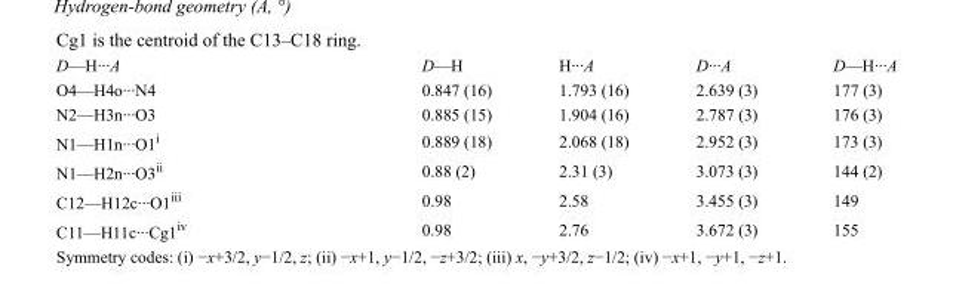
<table><tbody><tr><td>D—H···A</td><td>D—H</td><td>H···A</td><td>D···A</td><td>D—H···A</td></tr><tr><td>O4—H4o···N4</td><td>0.847 (16)</td><td>1.793 (16)</td><td>2.639 (3)</td><td>177 (3)</td></tr><tr><td>N2—H3n···O3</td><td>0.885 (15)</td><td>1.904 (16)</td><td>2.787 (3)</td><td>176 (3)</td></tr><tr><td>N1—H1n···O1<sup>i</sup></td><td>0.889 (18)</td><td>2.068 (18)</td><td>2.952 (3)</td><td>173 (3)</td></tr><tr><td>N1—H2n···O3<sup>ii</sup></td><td>0.88 (2)</td><td>2.31 (3)</td><td>3.073 (3)</td><td>144 (2)</td></tr><tr><td>C12—H12c···O1<sup>iii</sup></td><td>0.98</td><td>2.58</td><td>3.455 (3)</td><td>149</td></tr><tr><td>C11—H11c···Cg1<sup>iv</sup></td><td>0.98</td><td>2.76</td><td>3.672 (3)</td><td>155</td></tr></tbody></table>